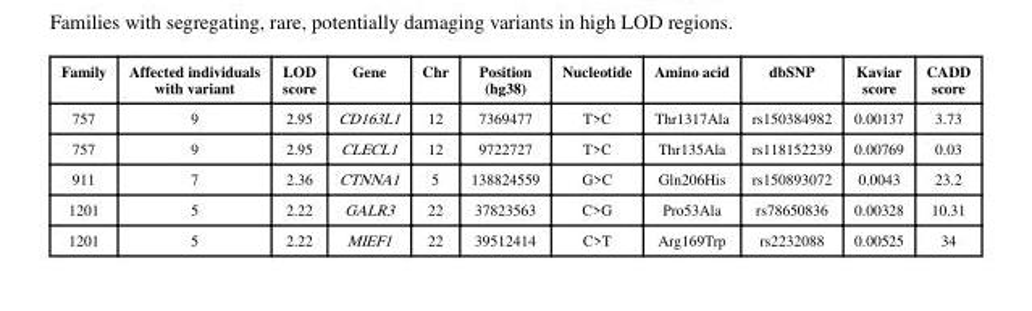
<table><thead><tr><td>Family</td><td>Affected individuals with variant</td><td>LOD score</td><td>Gene</td><td>Chr</td><td>Position (hg38)</td><td>Nucleotide</td><td>Amino acid</td><td>dbSNP</td><td>Kaviar score</td><td>CADD score</td></tr></thead><tbody><tr><td>757</td><td>9</td><td>2.95</td><td>CD163L1</td><td>12</td><td>7369477</td><td>T&gt;C</td><td>Thr1317Ala</td><td>rs150384982</td><td>0.00137</td><td>3.73</td></tr><tr><td>757</td><td>9</td><td>2.95</td><td>CLECL1</td><td>12</td><td>9722727</td><td>T&gt;C</td><td>Thr135Ala</td><td>rs118152239</td><td>0.00769</td><td>0.03</td></tr><tr><td>911</td><td>7</td><td>2.36</td><td>CTNNA1</td><td>5</td><td>138824559</td><td>G&gt;C</td><td>Gln206His</td><td>rs150893072</td><td>0.0043</td><td>23.2</td></tr><tr><td>1201</td><td>5</td><td>2.22</td><td>GALR3</td><td>22</td><td>37823563</td><td>C&gt;G</td><td>Pro53Ala</td><td>rs78650836</td><td>0.00328</td><td>10.31</td></tr><tr><td>1201</td><td>5</td><td>2.22</td><td>MIEF1</td><td>22</td><td>39512414</td><td>C&gt;T</td><td>Arg169Trp</td><td>rs2232088</td><td>0.00525</td><td>34</td></tr></tbody></table>